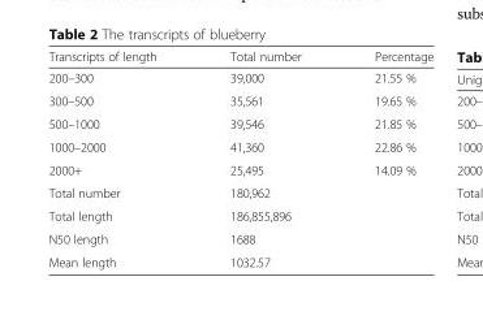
<table><thead><tr><td>Transcripts of length</td><td>Total number</td><td>Percentage</td></tr></thead><tbody><tr><td>200–300</td><td>39,000</td><td>21.55 %</td></tr><tr><td>300–500</td><td>35,561</td><td>19.65 %</td></tr><tr><td>500–1000</td><td>39,546</td><td>21.85 %</td></tr><tr><td>1000–2000</td><td>41,360</td><td>22.86 %</td></tr><tr><td>2000+</td><td>25,495</td><td>14.09 %</td></tr><tr><td>Total number</td><td colspan="2">180,962</td></tr><tr><td>Total length</td><td colspan="2">186,855,896</td></tr><tr><td>N50 length</td><td colspan="2">1688</td></tr><tr><td>Mean length</td><td colspan="2">1032.57</td></tr></tbody></table>